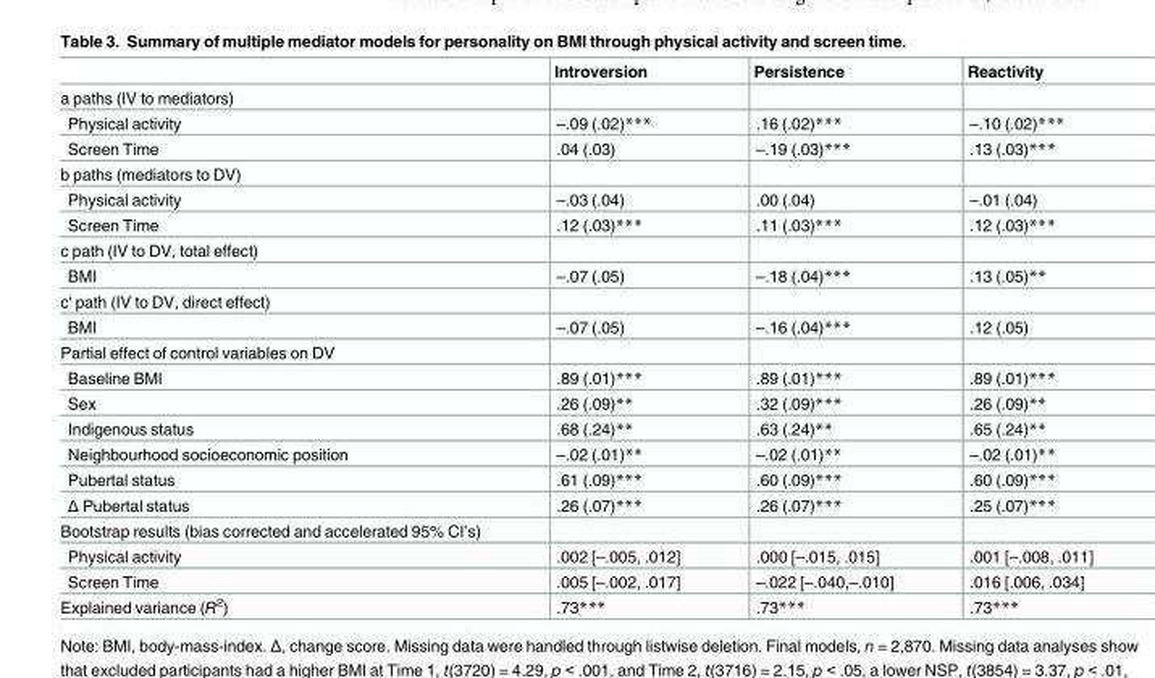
<table><thead><tr><td></td><td>Introversion</td><td>Persistence</td><td>Reactivity</td></tr></thead><tbody><tr><td colspan="4">a paths (IV to mediators)</td></tr><tr><td>Physical activity</td><td>–.09 (.02)***</td><td>.16 (.02)***</td><td>–.10 (.02)***</td></tr><tr><td>Screen Time</td><td>.04 (.03)</td><td>–.19 (.03)***</td><td>.13 (.03)***</td></tr><tr><td colspan="4">b paths (mediators to DV)</td></tr><tr><td>Physical activity</td><td>–.03 (.04)</td><td>.00 (.04)</td><td>–.01 (.04)</td></tr><tr><td>Screen Time</td><td>.12 (.03)***</td><td>.11 (.03)***</td><td>.12 (.03)***</td></tr><tr><td colspan="4">c path (IV to DV, total effect)</td></tr><tr><td>BMI</td><td>–.07 (.05)</td><td>–.18 (.04)***</td><td>.13 (.05)**</td></tr><tr><td colspan="4">c&#x27; path (IV to DV, direct effect)</td></tr><tr><td>BMI</td><td>–.07 (.05)</td><td>–.16 (.04)***</td><td>.12 (.05)</td></tr><tr><td colspan="4">Partial effect of control variables on DV</td></tr><tr><td>Baseline BMI</td><td>.89 (.01)***</td><td>.89 (.01)***</td><td>.89 (.01)***</td></tr><tr><td>Sex</td><td>.26 (.09)**</td><td>.32 (.09)***</td><td>.26 (.09)**</td></tr><tr><td>Indigenous status</td><td>.68 (.24)**</td><td>.63 (.24)**</td><td>.65 (.24)**</td></tr><tr><td>Neighbourhood socioeconomic position</td><td>–.02 (.01)**</td><td>–.02 (.01)**</td><td>–.02 (.01)**</td></tr><tr><td>Pubertal status</td><td>.61 (.09)***</td><td>.60 (.09)***</td><td>.60 (.09)***</td></tr><tr><td>Δ Pubertal status</td><td>.26 (.07)***</td><td>.26 (.07)***</td><td>.25 (.07)***</td></tr><tr><td colspan="4">Bootstrap results (bias corrected and accelerated 95% CI’s)</td></tr><tr><td>Physical activity</td><td>.002 [–.005, .012]</td><td>.000 [–.015, .015]</td><td>.001 [–.008, .011]</td></tr><tr><td>Screen Time</td><td>.005 [–.002, .017]</td><td>–.022 [–.040,–.010]</td><td>.016 [.006, .034]</td></tr><tr><td>Explained variance (R<sup>2</sup>)</td><td>.73***</td><td>.73***</td><td>.73***</td></tr></tbody></table>